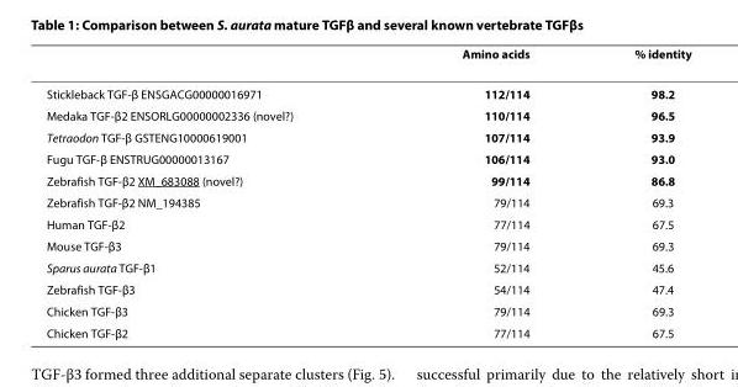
<table><thead><tr><td></td><td>Amino acids</td><td>% identity</td></tr></thead><tbody><tr><td>Stickleback TGF-β ENSGACG00000016971</td><td>112/114</td><td>98.2</td></tr><tr><td>Medaka TGF-β2 ENSORLG00000002336 (novel?)</td><td>110/114</td><td>96.5</td></tr><tr><td>Tetraodon TGF-β GSTENG10000619001</td><td>107/114</td><td>93.9</td></tr><tr><td>Fugu TGF-β ENSTRUG00000013167</td><td>106/114</td><td>93.0</td></tr><tr><td>Zebrafish TGF-β2 XM_683088 (novel?)</td><td>99/114</td><td>86.8</td></tr><tr><td>Zebrafish TGF-β2 NM_194385</td><td>79/114</td><td>69.3</td></tr><tr><td>Human TGF-β2</td><td>77/114</td><td>67.5</td></tr><tr><td>Mouse TGF-β3</td><td>79/114</td><td>69.3</td></tr><tr><td>Sparus aurata TGF-β1</td><td>52/114</td><td>45.6</td></tr><tr><td>Zebrafish TGF-β3</td><td>54/114</td><td>47.4</td></tr><tr><td>Chicken TGF-β3</td><td>79/114</td><td>69.3</td></tr><tr><td>Chicken TGF-β2</td><td>77/114</td><td>67.5</td></tr></tbody></table>